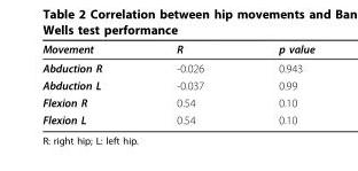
<table><thead><tr><td>Movement</td><td>R</td><td>p value</td></tr></thead><tbody><tr><td>Abduction R</td><td>-0.026</td><td>0.943</td></tr><tr><td>Abduction L</td><td>-0.037</td><td>0.99</td></tr><tr><td>Flexion R</td><td>0.54</td><td>0.10</td></tr><tr><td>Flexion L</td><td>0.54</td><td>0.10</td></tr></tbody></table>